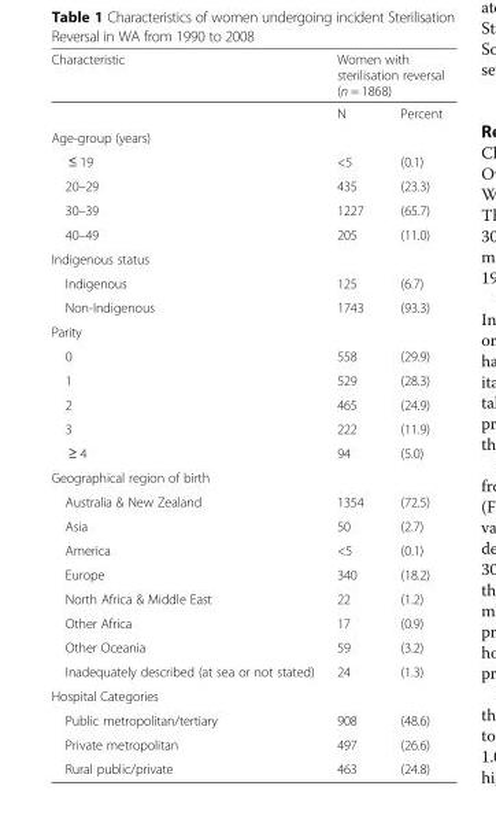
<table><thead><tr><td rowspan="2">Characteristic</td><td colspan="2">Women with sterilisation reversal (n = 1868)</td></tr><tr><td>N</td><td>Percent</td></tr></thead><tbody><tr><td colspan="3">Age-group (years)</td></tr><tr><td>≤ 19</td><td>&lt;5</td><td>(0.1)</td></tr><tr><td>20–29</td><td>435</td><td>(23.3)</td></tr><tr><td>30–39</td><td>1227</td><td>(65.7)</td></tr><tr><td>40–49</td><td>205</td><td>(11.0)</td></tr><tr><td colspan="3">Indigenous status</td></tr><tr><td>Indigenous</td><td>125</td><td>(6.7)</td></tr><tr><td>Non-Indigenous</td><td>1743</td><td>(93.3)</td></tr><tr><td colspan="3">Parity</td></tr><tr><td>0</td><td>558</td><td>(29.9)</td></tr><tr><td>1</td><td>529</td><td>(28.3)</td></tr><tr><td>2</td><td>465</td><td>(24.9)</td></tr><tr><td>3</td><td>222</td><td>(11.9)</td></tr><tr><td>≥ 4</td><td>94</td><td>(5.0)</td></tr><tr><td colspan="3">Geographical region of birth</td></tr><tr><td>Australia &amp; New Zealand</td><td>1354</td><td>(72.5)</td></tr><tr><td>Asia</td><td>50</td><td>(2.7)</td></tr><tr><td>America</td><td>&lt;5</td><td>(0.1)</td></tr><tr><td>Europe</td><td>340</td><td>(18.2)</td></tr><tr><td>North Africa &amp; Middle East</td><td>22</td><td>(1.2)</td></tr><tr><td>Other Africa</td><td>17</td><td>(0.9)</td></tr><tr><td>Other Oceania</td><td>59</td><td>(3.2)</td></tr><tr><td>Inadequately described (at sea or not stated)</td><td>24</td><td>(1.3)</td></tr><tr><td colspan="3">Hospital Categories</td></tr><tr><td>Public metropolitan/tertiary</td><td>908</td><td>(48.6)</td></tr><tr><td>Private metropolitan</td><td>497</td><td>(26.6)</td></tr><tr><td>Rural public/private</td><td>463</td><td>(24.8)</td></tr></tbody></table>